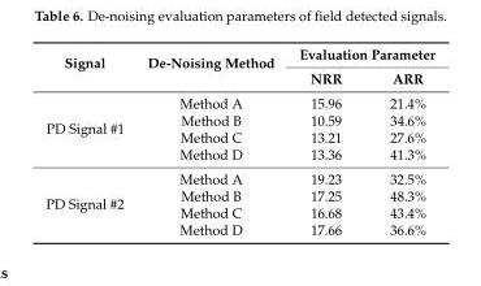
<table><thead><tr><td rowspan="2">Signal</td><td rowspan="2">De-Noising Method</td><td colspan="2">Evaluation Parameter</td></tr><tr><td>NRR</td><td>ARR</td></tr></thead><tbody><tr><td rowspan="4">PD Signal #1</td><td>Method A</td><td>15.96</td><td>21.4%</td></tr><tr><td>Method B</td><td>10.59</td><td>34.6%</td></tr><tr><td>Method C</td><td>13.21</td><td>27.6%</td></tr><tr><td>Method D</td><td>13.36</td><td>41.3%</td></tr><tr><td rowspan="4">PD Signal #2</td><td>Method A</td><td>19.23</td><td>32.5%</td></tr><tr><td>Method B</td><td>17.25</td><td>48.3%</td></tr><tr><td>Method C</td><td>16.68</td><td>43.4%</td></tr><tr><td>Method D</td><td>17.66</td><td>36.6%</td></tr></tbody></table>